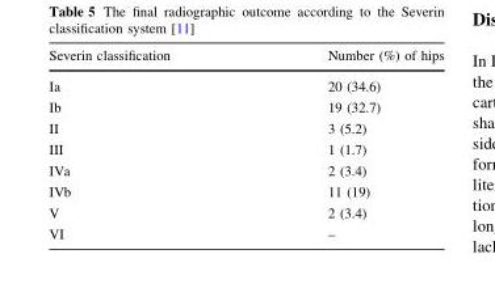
<table><thead><tr><td>Severin classification</td><td>Number (%) of hips</td></tr></thead><tbody><tr><td>Ia</td><td>20 (34.6)</td></tr><tr><td>Ib</td><td>19 (32.7)</td></tr><tr><td>II</td><td>3 (5.2)</td></tr><tr><td>III</td><td>1 (1.7)</td></tr><tr><td>IVa</td><td>2 (3.4)</td></tr><tr><td>IVb</td><td>11 (19)</td></tr><tr><td>V</td><td>2 (3.4)</td></tr><tr><td>VI</td><td>–</td></tr></tbody></table>